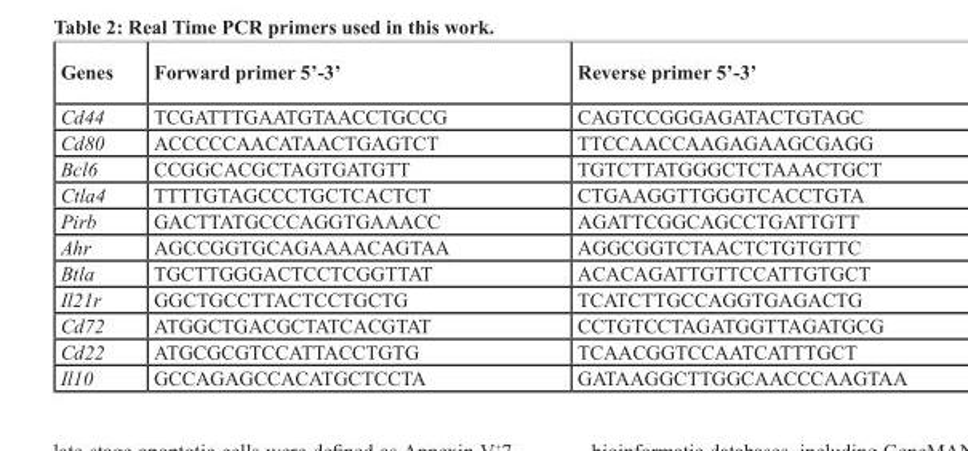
<table><thead><tr><td>Genes</td><td>Forward primer 5’-3’</td><td>Reverse primer 5’-3’</td></tr></thead><tbody><tr><td>Cd44</td><td>TCGATTTGAATGTAACCTGCCG</td><td>CAGTCCGGGAGATACTGTAGC</td></tr><tr><td>Cd80</td><td>ACCCCCAACATAACTGAGTCT</td><td>TTCCAACCAAGAGAAGCGAGG</td></tr><tr><td>Bcl6</td><td>CCGGCACGCTAGTGATGTT</td><td>TGTCTTATGGGCTCTAAACTGCT</td></tr><tr><td>Ctla4</td><td>TTTTGTAGCCCTGCTCACTCT</td><td>CTGAAGGTTGGGTCACCTGTA</td></tr><tr><td>Pirb</td><td>GACTTATGCCCAGGTGAAACC</td><td>AGATTCGGCAGCCTGATTGTT</td></tr><tr><td>Ahr</td><td>AGCCGGTGCAGAAAACAGTAA</td><td>AGGCGGTCTAACTCTGTGTTC</td></tr><tr><td>Btla</td><td>TGCTTGGGACTCCTCGGTTAT</td><td>ACACAGATTGTTCCATTGTGCT</td></tr><tr><td>Il21r</td><td>GGCTGCCTTACTCCTGCTG</td><td>TCATCTTGCCAGGTGAGACTG</td></tr><tr><td>Cd72</td><td>ATGGCTGACGCTATCACGTAT</td><td>CCTGTCCTAGATGGTTAGATGCG</td></tr><tr><td>Cd22</td><td>ATGCGCGTCCATTACCTGTG</td><td>TCAACGGTCCAATCATTTGCT</td></tr><tr><td>Il10</td><td>GCCAGAGCCACATGCTCCTA</td><td>GATAAGGCTTGGCAACCCAAGTAA</td></tr></tbody></table>